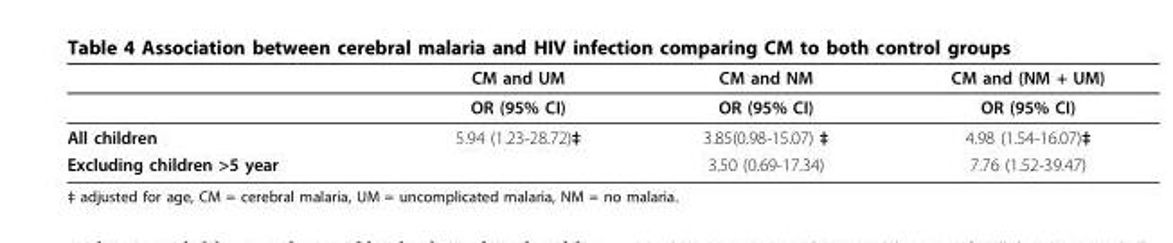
<table><thead><tr><td></td><td>CM and UM</td><td>CM and NM</td><td>CM and (NM + UM)</td></tr></thead><tbody><tr><td></td><td>OR (95% CI)</td><td>OR (95% CI)</td><td>OR (95% CI)</td></tr><tr><td>All children</td><td>5.94 (1.23-28.72)‡</td><td>3.85(0.98-15.07) ‡</td><td>4.98 (1.54-16.07)‡</td></tr><tr><td>Excluding children &gt;5 year</td><td></td><td>3.50 (0.69-17.34)</td><td>7.76 (1.52-39.47)</td></tr></tbody></table>